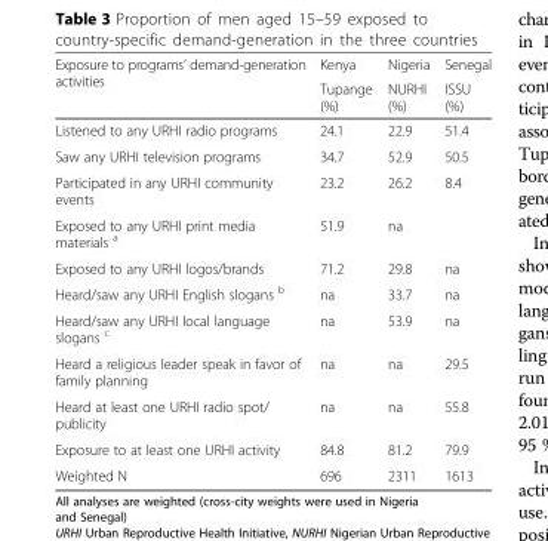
<table><thead><tr><td rowspan="2">Exposure to programs’ demand-generation activities</td><td rowspan="2">Kenya Tupange (%)</td><td rowspan="2">Nigeria NURHI (%)</td><td rowspan="2">Senegal ISSU (%)</td></tr><tr></tr></thead><tbody><tr><td>Listened to any URHI radio programs</td><td>24.1</td><td>22.9</td><td>51.4</td></tr><tr><td>Saw any URHI television programs</td><td>34.7</td><td>52.9</td><td>50.5</td></tr><tr><td>Participated in any URHI community events</td><td>23.2</td><td>26.2</td><td>8.4</td></tr><tr><td>Exposed to any URHI print media materials <sup>a</sup></td><td>51.9</td><td>na</td><td></td></tr><tr><td>Exposed to any URHI logos/brands</td><td>71.2</td><td>29.8</td><td>na</td></tr><tr><td>Heard/saw any URHI English slogans <sup>b</sup></td><td>na</td><td>33.7</td><td>na</td></tr><tr><td>Heard/saw any URHI local language slogans <sup>c</sup></td><td>na</td><td>53.9</td><td>na</td></tr><tr><td>Heard a religious leader speak in favor of family planning</td><td>na</td><td>na</td><td>29.5</td></tr><tr><td>Heard at least one URHI radio spot/ publicity</td><td>na</td><td>na</td><td>55.8</td></tr><tr><td>Exposure to at least one URHI activity</td><td>84.8</td><td>81.2</td><td>79.9</td></tr><tr><td>Weighted N</td><td>696</td><td>2311</td><td>1613</td></tr></tbody></table>